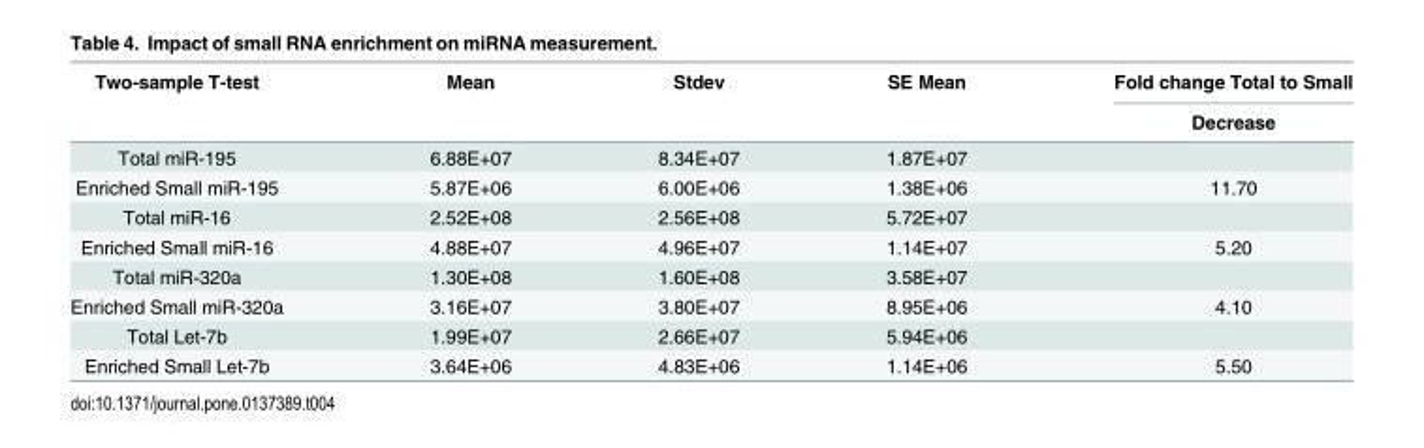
<table><thead><tr><td rowspan="2">Two-sample T-test</td><td rowspan="2">Mean</td><td rowspan="2">Stdev</td><td rowspan="2">SE Mean</td><td rowspan="2">Fold change Total to Small Decrease</td></tr><tr></tr></thead><tbody><tr><td>Total miR-195</td><td>6.88E+07</td><td>8.34E+07</td><td>1.87E+07</td><td></td></tr><tr><td>Enriched Small miR-195</td><td>5.87E+06</td><td>6.00E+06</td><td>1.38E+06</td><td>11.70</td></tr><tr><td>Total miR-16</td><td>2.52E+08</td><td>2.56E+08</td><td>5.72E+07</td><td></td></tr><tr><td>Enriched Small miR-16</td><td>4.88E+07</td><td>4.96E+07</td><td>1.14E+07</td><td>5.20</td></tr><tr><td>Total miR-320a</td><td>1.30E+08</td><td>1.60E+08</td><td>3.58E+07</td><td></td></tr><tr><td>Enriched Small miR-320a</td><td>3.16E+07</td><td>3.80E+07</td><td>8.95E+06</td><td>4.10</td></tr><tr><td>Total Let-7b</td><td>1.99E+07</td><td>2.66E+07</td><td>5.94E+06</td><td></td></tr><tr><td>Enriched Small Let-7b</td><td>3.64E+06</td><td>4.83E+06</td><td>1.14E+06</td><td>5.50</td></tr></tbody></table>